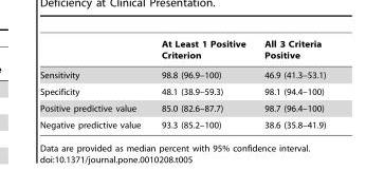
<table><thead><tr><td></td><td>At Least 1 Positive Criterion</td><td>All 3 Criteria Positive</td></tr></thead><tbody><tr><td>Sensitivity</td><td>98.8 (96.9–100)</td><td>46.9 (41.3–53.1)</td></tr><tr><td>Specificity</td><td>48.1 (38.9–59.3)</td><td>98.1 (94.4–100)</td></tr><tr><td>Positive predictive value</td><td>85.0 (82.6–87.7)</td><td>98.7 (96.4–100)</td></tr><tr><td>Negative predictive value</td><td>93.3 (85.2–100)</td><td>38.6 (35.8–41.9)</td></tr></tbody></table>